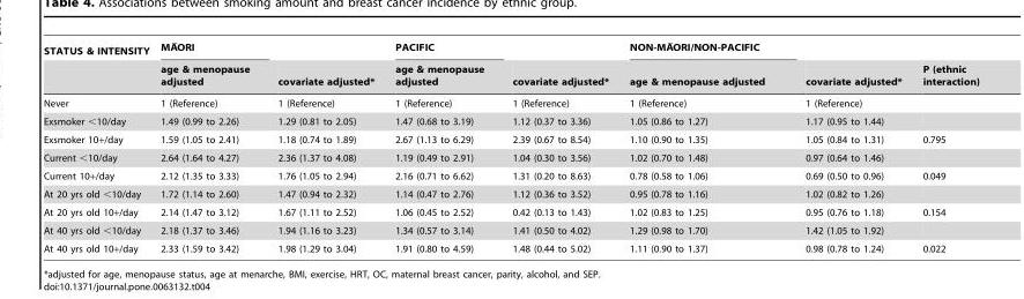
<table><thead><tr><td rowspan="2">STATUS &amp; INTENSITY</td><td rowspan="2">MA ORI age &amp; menopause adjusted</td><td rowspan="2">covariate adjusted*</td><td rowspan="2">PACIFIC age &amp; menopause adjusted</td><td rowspan="2">covariate adjusted*</td><td rowspan="2">NON-MA ORI/NON-PACIFIC age &amp; menopause adjusted</td><td rowspan="2">covariate adjusted*</td><td rowspan="2">P (ethnic interaction)</td></tr><tr></tr></thead><tbody><tr><td>Never</td><td>1 (Reference)</td><td>1 (Reference)</td><td>1 (Reference)</td><td>1 (Reference)</td><td>1 (Reference)</td><td>1 (Reference)</td><td></td></tr><tr><td>Exsmoker &lt;10/day</td><td>1.49 (0.99 to 2.26)</td><td>1.29 (0.81 to 2.05)</td><td>1.47 (0.68 to 3.19)</td><td>1.12 (0.37 to 3.36)</td><td>1.05 (0.86 to 1.27)</td><td>1.17 (0.95 to 1.44)</td><td></td></tr><tr><td>Exsmoker 10+/day</td><td>1.59 (1.05 to 2.41)</td><td>1.18 (0.74 to 1.89)</td><td>2.67 (1.13 to 6.29)</td><td>2.39 (0.67 to 8.54)</td><td>1.10 (0.90 to 1.35)</td><td>1.05 (0.84 to 1.31)</td><td>0.795</td></tr><tr><td>Current &lt;10/day</td><td>2.64 (1.64 to 4.27)</td><td>2.36 (1.37 to 4.08)</td><td>1.19 (0.49 to 2.91)</td><td>1.04 (0.30 to 3.56)</td><td>1.02 (0.70 to 1.48)</td><td>0.97 (0.64 to 1.46)</td><td></td></tr><tr><td>Current 10+/day</td><td>2.12 (1.35 to 3.33)</td><td>1.76 (1.05 to 2.94)</td><td>2.16 (0.71 to 6.62)</td><td>1.31 (0.20 to 8.63)</td><td>0.78 (0.58 to 1.06)</td><td>0.69 (0.50 to 0.96)</td><td>0.049</td></tr><tr><td>At 20 yrs old &lt;10/day</td><td>1.72 (1.14 to 2.60)</td><td>1.47 (0.94 to 2.32)</td><td>1.14 (0.47 to 2.76)</td><td>1.12 (0.36 to 3.52)</td><td>0.95 (0.78 to 1.16)</td><td>1.02 (0.82 to 1.26)</td><td></td></tr><tr><td>At 20 yrs old 10+/day</td><td>2.14 (1.47 to 3.12)</td><td>1.67 (1.11 to 2.52)</td><td>1.06 (0.45 to 2.52)</td><td>0.42 (0.13 to 1.43)</td><td>1.02 (0.83 to 1.25)</td><td>0.95 (0.76 to 1.18)</td><td>0.154</td></tr><tr><td>At 40 yrs old &lt;10/day</td><td>2.18 (1.37 to 3.46)</td><td>1.94 (1.16 to 3.23)</td><td>1.34 (0.57 to 3.14)</td><td>1.41 (0.50 to 4.02)</td><td>1.29 (0.98 to 1.70)</td><td>1.42 (1.05 to 1.92)</td><td></td></tr><tr><td>At 40 yrs old 10+/day</td><td>2.33 (1.59 to 3.42)</td><td>1.98 (1.29 to 3.04)</td><td>1.91 (0.80 to 4.59)</td><td>1.48 (0.44 to 5.02)</td><td>1.11 (0.90 to 1.37)</td><td>0.98 (0.78 to 1.24)</td><td>0.022</td></tr></tbody></table>